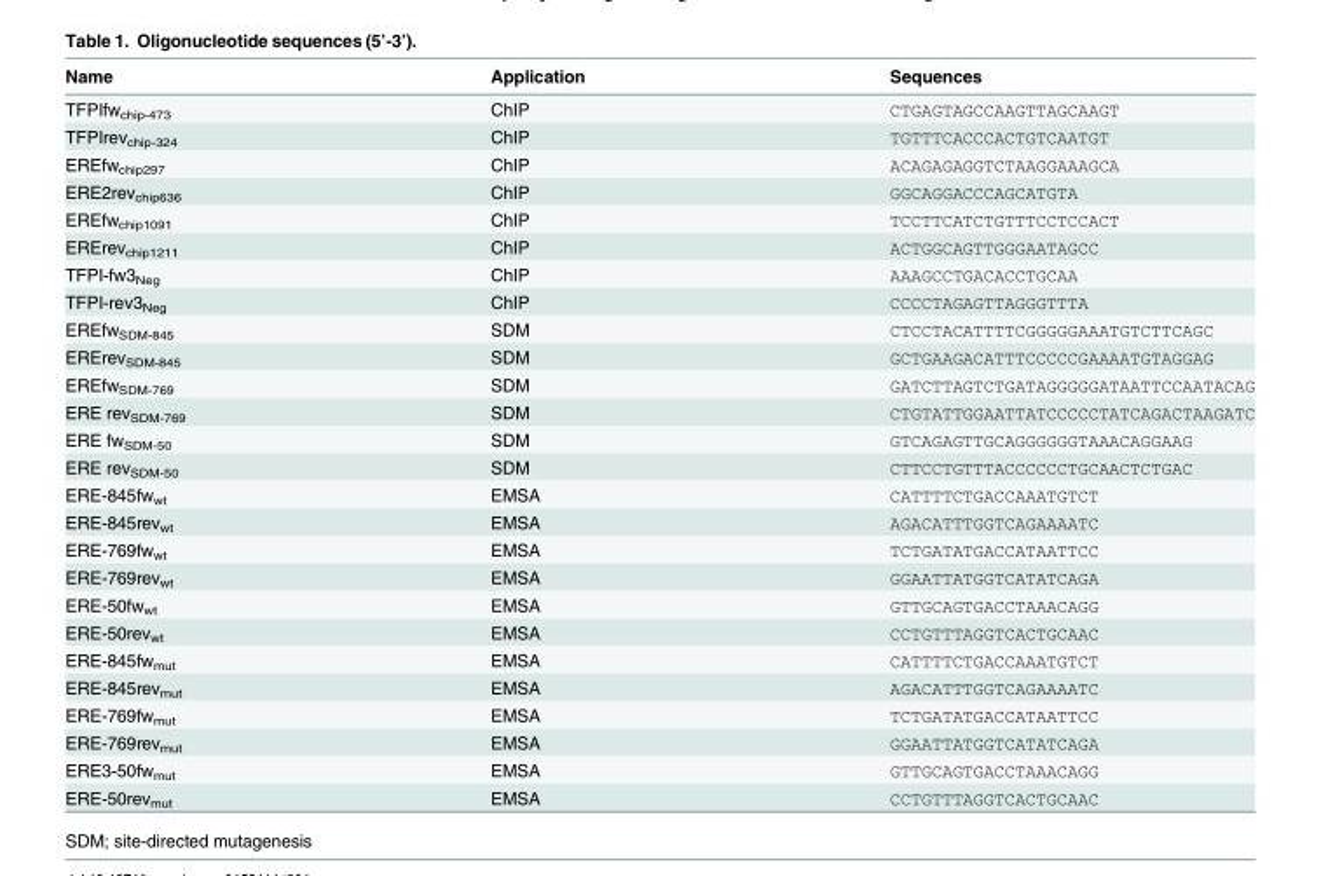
<table><thead><tr><td>Name</td><td>Application</td><td>Sequences</td></tr></thead><tbody><tr><td>TFPIfw<sub>chip-473</sub></td><td>ChIP</td><td>CTGAGTAGCCAAGTTAGCAAGT</td></tr><tr><td>TFPIrev<sub>chip-324</sub></td><td>ChIP</td><td>TGTTTCACCCACTGTCAATGT</td></tr><tr><td>EREfw<sub>chip297</sub></td><td>ChIP</td><td>ACAGAGAGGTCTAAGGAAAGCA</td></tr><tr><td>ERE2rev<sub>chip636</sub></td><td>ChIP</td><td>GGCAGGACCCAGCATGTA</td></tr><tr><td>EREfw<sub>chip1091</sub></td><td>ChIP</td><td>TCCTTCATCTGTTTCCTCCACT</td></tr><tr><td>ERErev<sub>chip1211</sub></td><td>ChIP</td><td>ACTGGCAGTTGGGAATAGCC</td></tr><tr><td>TFPI-fw3<sub>Neg</sub></td><td>ChIP</td><td>AAAGCCTGACACCTGCAA</td></tr><tr><td>TFPI-rev3<sub>Neg</sub></td><td>ChIP</td><td>CCCCTAGAGTTAGGGTTTA</td></tr><tr><td>EREfw<sub>SDM-845</sub></td><td>SDM</td><td>CTCCTACATTTTCGGGGGAAATGTCTTCAGC</td></tr><tr><td>ERErev<sub>SDM-845</sub></td><td>SDM</td><td>GCTGAAGACATTTCCCCCGAAAATGTAGGAG</td></tr><tr><td>EREfw<sub>SDM-769</sub></td><td>SDM</td><td>GATCTTAGTCTGATAGGGGGATAATTCCAATACAG</td></tr><tr><td>ERE rev<sub>SDM-769</sub></td><td>SDM</td><td>CTGTATTGGAATTATCCCCCTATCAGACTAAGATC</td></tr><tr><td>ERE fw<sub>SDM-50</sub></td><td>SDM</td><td>GTCAGAGTTGCAGGGGGGTAAACAGGAAG</td></tr><tr><td>ERE rev<sub>SDM-50</sub></td><td>SDM</td><td>CTTCCTGTTTACCCCCCTGCAACTCTGAC</td></tr><tr><td>ERE-845fw<sub>wt</sub></td><td>EMSA</td><td>CATTTTCTGACCAAATGTCT</td></tr><tr><td>ERE-845rev<sub>wt</sub></td><td>EMSA</td><td>AGACATTTGGTCAGAAAATC</td></tr><tr><td>ERE-769fw<sub>wt</sub></td><td>EMSA</td><td>TCTGATATGACCATAATTCC</td></tr><tr><td>ERE-769rev<sub>wt</sub></td><td>EMSA</td><td>GGAATTATGGTCATATCAGA</td></tr><tr><td>ERE-50fw<sub>wt</sub></td><td>EMSA</td><td>GTTGCAGTGACCTAAACAGG</td></tr><tr><td>ERE-50rev<sub>wt</sub></td><td>EMSA</td><td>CCTGTTTAGGTCACTGCAAC</td></tr><tr><td>ERE-845fw<sub>mut</sub></td><td>EMSA</td><td>CATTTTCTGACCAAATGTCT</td></tr><tr><td>ERE-845rev<sub>mut</sub></td><td>EMSA</td><td>AGACATTTGGTCAGAAAATC</td></tr><tr><td>ERE-769fw<sub>mut</sub></td><td>EMSA</td><td>TCTGATATGACCATAATTCC</td></tr><tr><td>ERE-769rev<sub>mut</sub></td><td>EMSA</td><td>GGAATTATGGTCATATCAGA</td></tr><tr><td>ERE3-50fw<sub>mut</sub></td><td>EMSA</td><td>GTTGCAGTGACCTAAACAGG</td></tr><tr><td>ERE-50rev<sub>mut</sub></td><td>EMSA</td><td>CCTGTTTAGGTCACTGCAAC</td></tr></tbody></table>